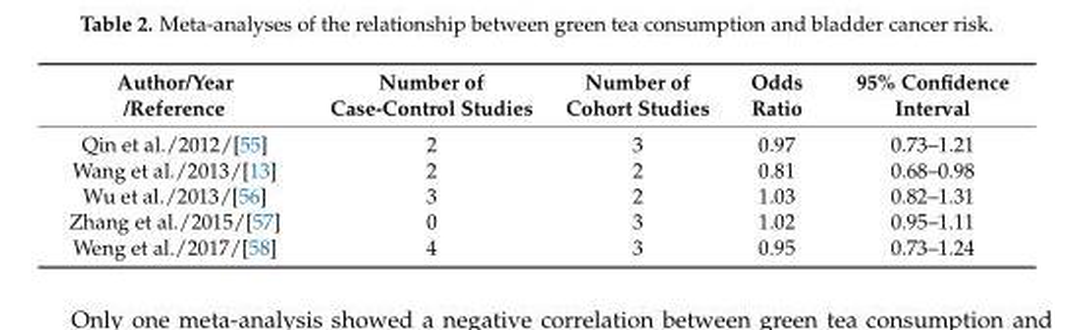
<table><thead><tr><td>Author/Year /Reference</td><td>Number of Case-Control Studies</td><td>Number of Cohort Studies</td><td>Odds Ratio</td><td>95% Confidence Interval</td></tr></thead><tbody><tr><td>Qin et al./2012/[55]</td><td>2</td><td>3</td><td>0.97</td><td>0.73–1.21</td></tr><tr><td>Wang et al./2013/[13]</td><td>2</td><td>2</td><td>0.81</td><td>0.68–0.98</td></tr><tr><td>Wu et al./2013/[56]</td><td>3</td><td>2</td><td>1.03</td><td>0.82–1.31</td></tr><tr><td>Zhang et al./2015/[57]</td><td>0</td><td>3</td><td>1.02</td><td>0.95–1.11</td></tr><tr><td>Weng et al./2017/[58]</td><td>4</td><td>3</td><td>0.95</td><td>0.73–1.24</td></tr></tbody></table>